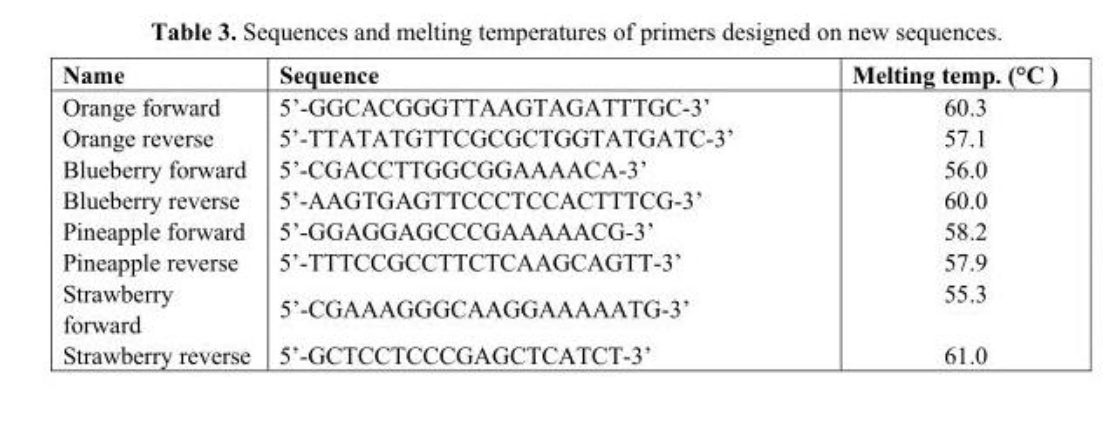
<table><thead><tr><td>Name</td><td>Sequence</td><td>Melting temp. (°C )</td></tr></thead><tbody><tr><td>Orange forward</td><td>5’-GGCACGGGTTAAGTAGATTTGC-3’</td><td>60.3</td></tr><tr><td>Orange reverse</td><td>5’-TTATATGTTCGCGCTGGTATGATC-3’</td><td>57.1</td></tr><tr><td>Blueberry forward</td><td>5’-CGACCTTGGCGGAAAACA-3’</td><td>56.0</td></tr><tr><td>Blueberry reverse</td><td>5’-AAGTGAGTTCCCTCCACTTTCG-3’</td><td>60.0</td></tr><tr><td>Pineapple forward</td><td>5’-GGAGGAGCCCGAAAAACG-3’</td><td>58.2</td></tr><tr><td>Pineapple reverse</td><td>5’-TTTCCGCCTTCTCAAGCAGTT-3’</td><td>57.9</td></tr><tr><td>Strawberry forward</td><td>5’-CGAAAGGGCAAGGAAAAATG-3’</td><td>55.3</td></tr><tr><td>Strawberry reverse</td><td>5’-GCTCCTCCCGAGCTCATCT-3’</td><td>61.0</td></tr></tbody></table>